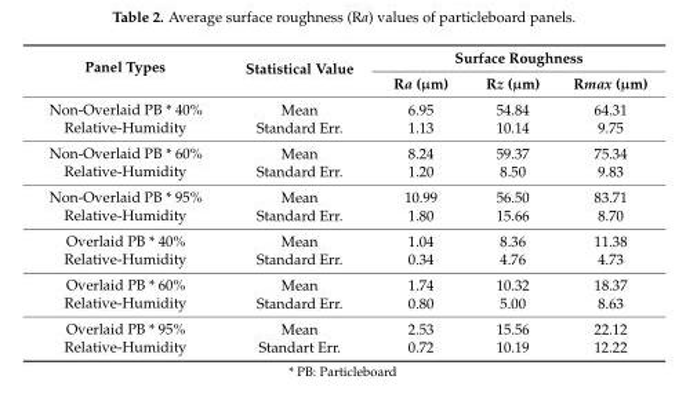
<table><thead><tr><td rowspan="2">Panel Types</td><td rowspan="2">Statistical Value</td><td colspan="3">Surface Roughness</td></tr><tr><td>Ra (µm)</td><td>Rz (µm)</td><td>Rmax (µm)</td></tr></thead><tbody><tr><td rowspan="2">Non-Overlaid PB * 40% Relative-Humidity</td><td>Mean</td><td>6.95</td><td>54.84</td><td>64.31</td></tr><tr><td>Standard Err.</td><td>1.13</td><td>10.14</td><td>9.75</td></tr><tr><td rowspan="2">Non-Overlaid PB * 60% Relative-Humidity</td><td>Mean</td><td>8.24</td><td>59.37</td><td>75.34</td></tr><tr><td>Standard Err.</td><td>1.20</td><td>8.50</td><td>9.83</td></tr><tr><td rowspan="2">Non-Overlaid PB * 95% Relative-Humidity</td><td>Mean</td><td>10.99</td><td>56.50</td><td>83.71</td></tr><tr><td>Standard Err.</td><td>1.80</td><td>15.66</td><td>8.70</td></tr><tr><td rowspan="2">Overlaid PB * 40% Relative-Humidity</td><td>Mean</td><td>1.04</td><td>8.36</td><td>11.38</td></tr><tr><td>Standard Err.</td><td>0.34</td><td>4.76</td><td>4.73</td></tr><tr><td rowspan="2">Overlaid PB * 60% Relative-Humidity</td><td>Mean</td><td>1.74</td><td>10.32</td><td>18.37</td></tr><tr><td>Standard Err.</td><td>0.80</td><td>5.00</td><td>8.63</td></tr><tr><td rowspan="2">Overlaid PB * 95% Relative-Humidity</td><td>Mean</td><td>2.53</td><td>15.56</td><td>22.12</td></tr><tr><td>Standart Err.</td><td>0.72</td><td>10.19</td><td>12.22</td></tr></tbody></table>